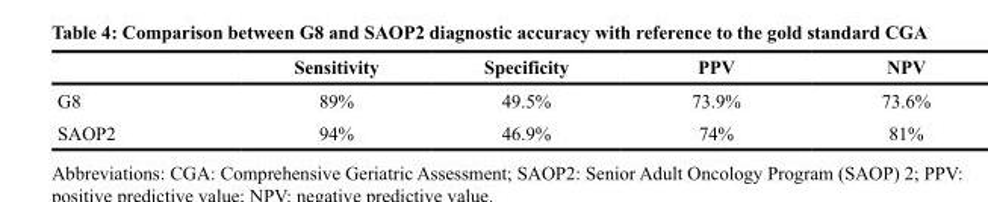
<table><thead><tr><td></td><td>Sensitivity</td><td>Specificity</td><td>PPV</td><td>NPV</td></tr></thead><tbody><tr><td>G8</td><td>89%</td><td>49.5%</td><td>73.9%</td><td>73.6%</td></tr><tr><td>SAOP2</td><td>94%</td><td>46.9%</td><td>74%</td><td>81%</td></tr></tbody></table>